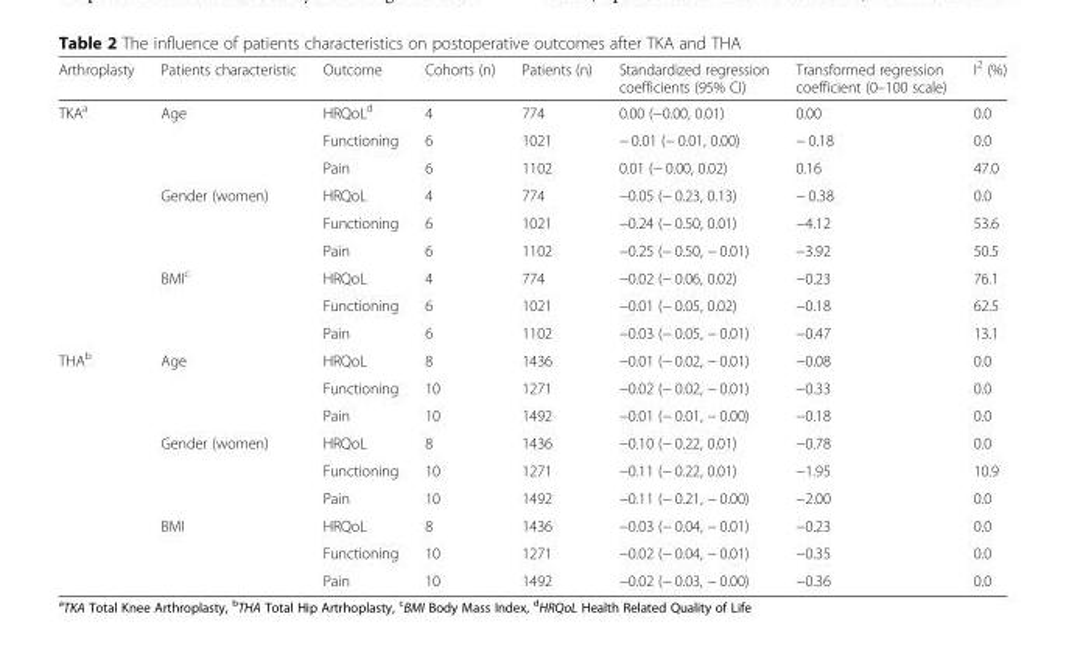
<table><thead><tr><td>Arthroplasty</td><td>Patients characteristic</td><td>Outcome</td><td>Cohorts (n)</td><td>Patients (n)</td><td>Standardized regression coefficients (95% CI)</td><td>Transformed regression coefficient (0–100 scale)</td><td>I<sup>2</sup> (%)</td></tr></thead><tbody><tr><td rowspan="9">TKA<sup>a</sup></td><td rowspan="3">Age</td><td>HRQoL<sup>d</sup></td><td>4</td><td>774</td><td>0.00 (−0.00, 0.01)</td><td>0.00</td><td>0.0</td></tr><tr><td>Functioning</td><td>6</td><td>1021</td><td>− 0.01 (− 0.01, 0.00)</td><td>− 0.18</td><td>0.0</td></tr><tr><td>Pain</td><td>6</td><td>1102</td><td>0.01 (− 0.00, 0.02)</td><td>0.16</td><td>47.0</td></tr><tr><td rowspan="3">Gender (women)</td><td>HRQoL</td><td>4</td><td>774</td><td>−0.05 (− 0.23, 0.13)</td><td>− 0.38</td><td>0.0</td></tr><tr><td>Functioning</td><td>6</td><td>1021</td><td>−0.24 (− 0.50, 0.01)</td><td>−4.12</td><td>53.6</td></tr><tr><td>Pain</td><td>6</td><td>1102</td><td>−0.25 (− 0.50, − 0.01)</td><td>−3.92</td><td>50.5</td></tr><tr><td rowspan="3">BMI<sup>c</sup></td><td>HRQoL</td><td>4</td><td>774</td><td>−0.02 (− 0.06, 0.02)</td><td>−0.23</td><td>76.1</td></tr><tr><td>Functioning</td><td>6</td><td>1021</td><td>−0.01 (− 0.05, 0.02)</td><td>−0.18</td><td>62.5</td></tr><tr><td>Pain</td><td>6</td><td>1102</td><td>−0.03 (− 0.05, − 0.01)</td><td>−0.47</td><td>13.1</td></tr><tr><td rowspan="9">THA<sup>b</sup></td><td rowspan="3">Age</td><td>HRQoL</td><td>8</td><td>1436</td><td>−0.01 (− 0.02, − 0.01)</td><td>−0.08</td><td>0.0</td></tr><tr><td>Functioning</td><td>10</td><td>1271</td><td>−0.02 (− 0.02, − 0.01)</td><td>−0.33</td><td>0.0</td></tr><tr><td>Pain</td><td>10</td><td>1492</td><td>−0.01 (− 0.01, − 0.00)</td><td>−0.18</td><td>0.0</td></tr><tr><td rowspan="3">Gender (women)</td><td>HRQoL</td><td>8</td><td>1436</td><td>−0.10 (− 0.22, 0.01)</td><td>−0.78</td><td>0.0</td></tr><tr><td>Functioning</td><td>10</td><td>1271</td><td>−0.11 (− 0.22, 0.01)</td><td>−1.95</td><td>10.9</td></tr><tr><td>Pain</td><td>10</td><td>1492</td><td>−0.11 (− 0.21, − 0.00)</td><td>−2.00</td><td>0.0</td></tr><tr><td rowspan="3">BMI</td><td>HRQoL</td><td>8</td><td>1436</td><td>−0.03 (− 0.04, − 0.01)</td><td>−0.23</td><td>0.0</td></tr><tr><td>Functioning</td><td>10</td><td>1271</td><td>−0.02 (− 0.04, − 0.01)</td><td>−0.35</td><td>0.0</td></tr><tr><td>Pain</td><td>10</td><td>1492</td><td>−0.02 (− 0.03, − 0.00)</td><td>−0.36</td><td>0.0</td></tr></tbody></table>